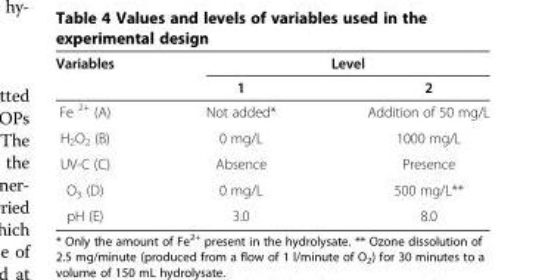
<table><thead><tr><td rowspan="2">Variables</td><td colspan="2">Level</td></tr><tr><td>1</td><td>2</td></tr></thead><tbody><tr><td>Fe <sup>2+</sup> (A)</td><td>Not added*</td><td>Addition of 50 mg/L</td></tr><tr><td>H<sub>2</sub>O<sub>2</sub> (B)</td><td>0 mg/L</td><td>1000 mg/L</td></tr><tr><td>UV-C (C)</td><td>Absence</td><td>Presence</td></tr><tr><td>O<sub>3</sub> (D)</td><td>0 mg/L</td><td>500 mg/L**</td></tr><tr><td>pH (E)</td><td>3.0</td><td>8.0</td></tr></tbody></table>